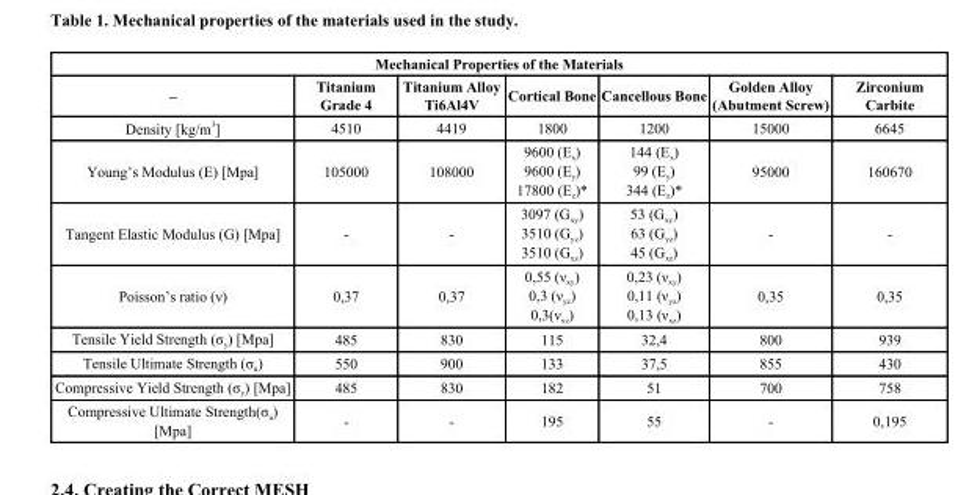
<table><thead><tr><td colspan="7">Mechanical Properties of the Materials</td></tr><tr><td>–</td><td>Titanium Grade 4</td><td>Titanium Alloy Ti6Al4V</td><td>Cortical Bone</td><td>Cancellous Bone</td><td>Golden Alloy (Abutment Screw)</td><td>Zirconium Carbite</td></tr></thead><tbody><tr><td>Density [kg/m <sup>3</sup>]</td><td>4510</td><td>4419</td><td>1800</td><td>1200</td><td>15000</td><td>6645</td></tr><tr><td>Young’s Modulus (E) [Mpa]</td><td>105000</td><td>108000</td><td>9600 (E<sub>x</sub>) 9600 (E<sub>y</sub>) 17800 (E<sub>z</sub>)*</td><td>144 (E<sub>x</sub>) 99 (E<sub>y</sub>) 344 (E<sub>z</sub>)*</td><td>95000</td><td>160670</td></tr><tr><td>Tangent Elastic Modulus (G) [Mpa]</td><td>-</td><td>-</td><td>3097 (G<sub>xy</sub>) 3510 (G<sub>yz</sub>) 3510 (G<sub>xz</sub>)</td><td>53 (G<sub>xy</sub>) 63 (G<sub>yz</sub>) 45 (G<sub>xz</sub>)</td><td>-</td><td>-</td></tr><tr><td>Poisson’s ratio (ν)</td><td>0,37</td><td>0,37</td><td>0,55 (ν<sub>xy</sub>) 0,3 (ν<sub>yz</sub>) 0,3(ν<sub>xz</sub>)</td><td>0,23 (ν<sub>xy</sub>) 0,11 (ν<sub>yz</sub>) 0,13 (ν<sub>xz</sub>)</td><td>0,35</td><td>0,35</td></tr><tr><td>Tensile Yield Strength (σ<sub>y</sub>) [Mpa]</td><td>485</td><td>830</td><td>115</td><td>32,4</td><td>800</td><td>939</td></tr><tr><td>Tensile Ultimate Strength (σ<sub>u</sub>)</td><td>550</td><td>900</td><td>133</td><td>37,5</td><td>855</td><td>430</td></tr><tr><td>Compressive Yield Strength (σ<sub>y</sub>) [Mpa]</td><td>485</td><td>830</td><td>182</td><td>51</td><td>700</td><td>758</td></tr><tr><td>Compressive Ultimate Strength(σ<sub>u</sub>) [Mpa]</td><td>-</td><td>-</td><td>195</td><td>55</td><td>-</td><td>0,195</td></tr></tbody></table>